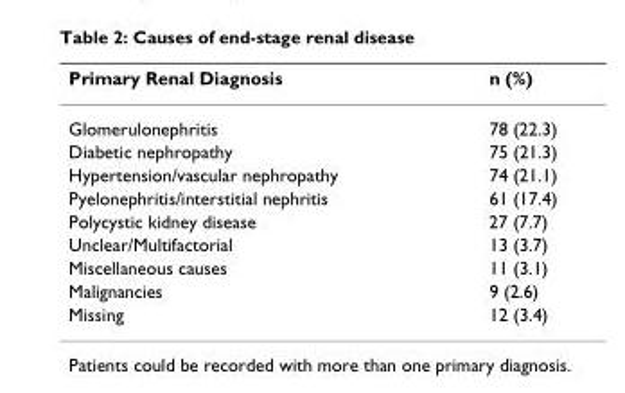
<table><thead><tr><td>Primary Renal Diagnosis</td><td>n (%)</td></tr></thead><tbody><tr><td>Glomerulonephritis</td><td>78 (22.3)</td></tr><tr><td>Diabetic nephropathy</td><td>75 (21.3)</td></tr><tr><td>Hypertension/vascular nephropathy</td><td>74 (21.1)</td></tr><tr><td>Pyelonephritis/interstitial nephritis</td><td>61 (17.4)</td></tr><tr><td>Polycystic kidney disease</td><td>27 (7.7)</td></tr><tr><td>Unclear/Multifactorial</td><td>13 (3.7)</td></tr><tr><td>Miscellaneous causes</td><td>11 (3.1)</td></tr><tr><td>Malignancies</td><td>9 (2.6)</td></tr><tr><td>Missing</td><td>12 (3.4)</td></tr></tbody></table>